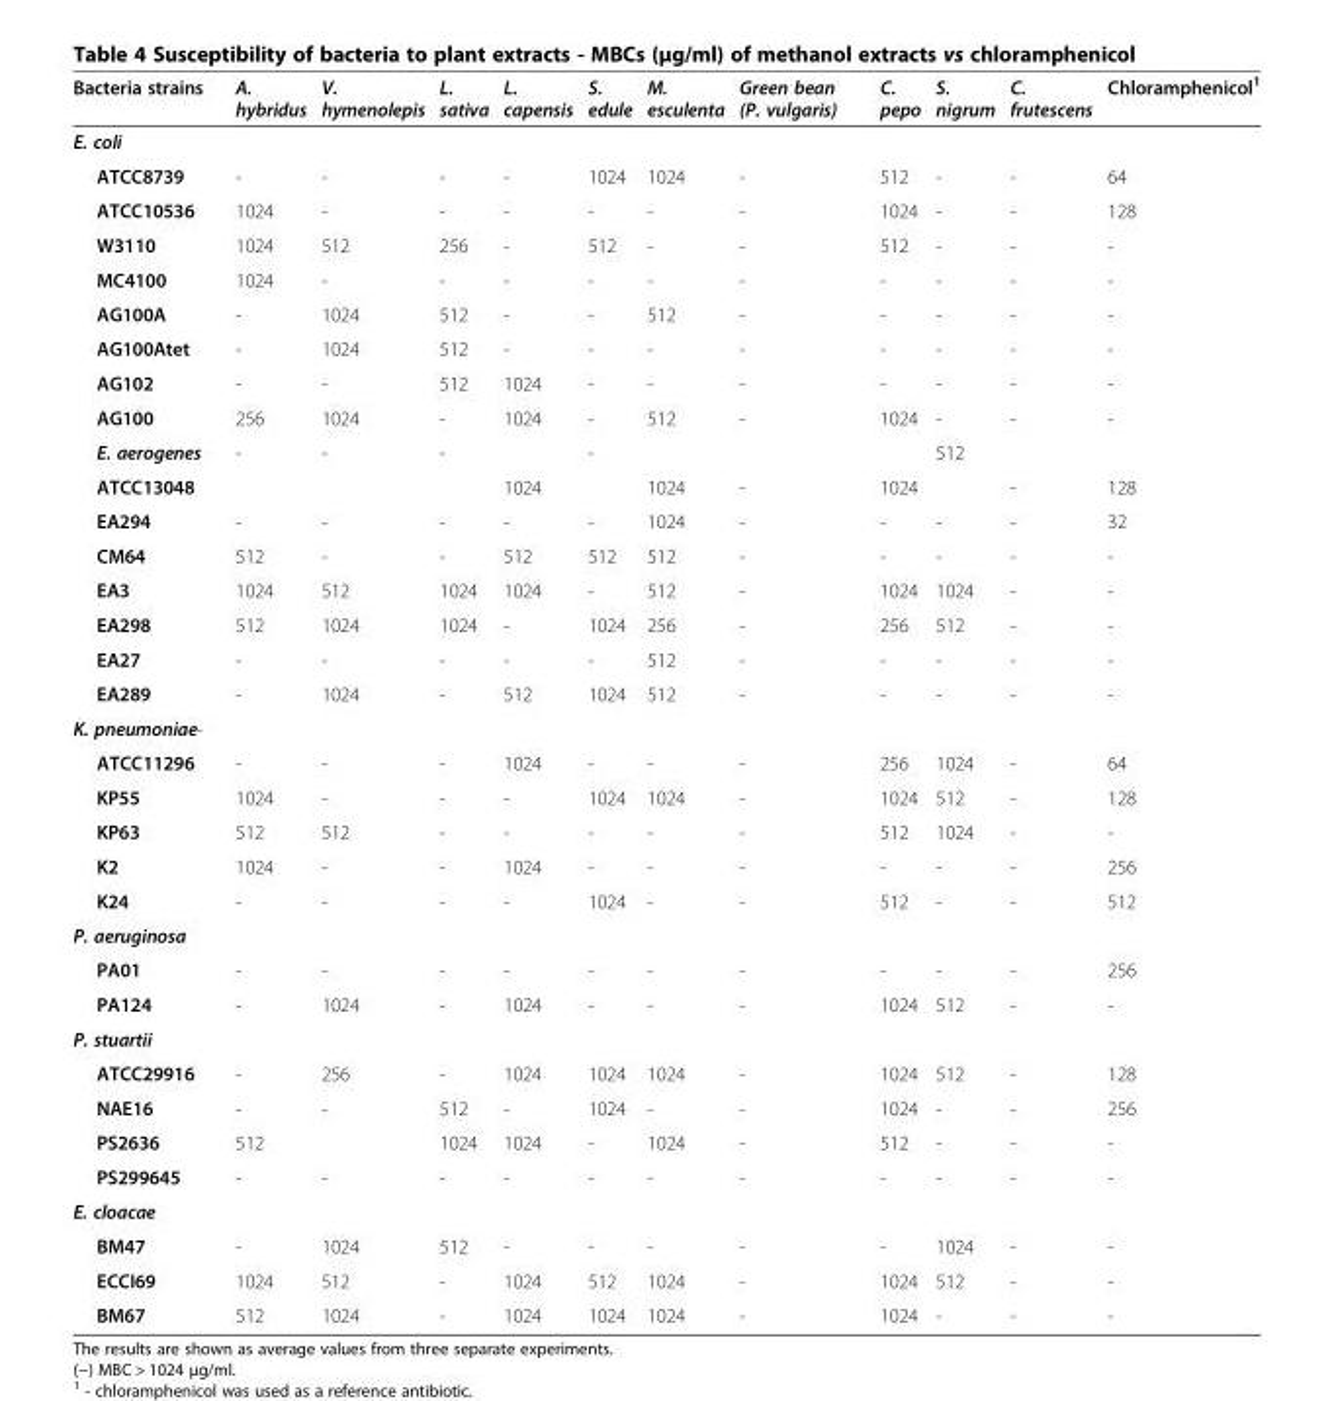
<table><thead><tr><td>Bacteria strains</td><td>A. hybridus</td><td>V. hymenolepis</td><td>L. sativa</td><td>L. capensis</td><td>S. edule</td><td>M. esculenta</td><td>Green bean (P. vulgaris)</td><td>C. pepo</td><td>S. nigrum</td><td>C. frutescens</td><td>Chloramphenicol<sup>1</sup></td></tr></thead><tbody><tr><td colspan="12">E. coli</td></tr><tr><td>ATCC8739</td><td>-</td><td>-</td><td>-</td><td>-</td><td>1024</td><td>1024</td><td>-</td><td>512</td><td>-</td><td>-</td><td>64</td></tr><tr><td>ATCC10536</td><td>1024</td><td>-</td><td>-</td><td>-</td><td>-</td><td>-</td><td>-</td><td>1024</td><td>-</td><td>-</td><td>128</td></tr><tr><td>W3110</td><td>1024</td><td>512</td><td>256</td><td>-</td><td>512</td><td>-</td><td>-</td><td>512</td><td>-</td><td>-</td><td>-</td></tr><tr><td>MC4100</td><td>1024</td><td>-</td><td>-</td><td>-</td><td>-</td><td>-</td><td>-</td><td>-</td><td>-</td><td>-</td><td>-</td></tr><tr><td>AG100A</td><td>-</td><td>1024</td><td>512</td><td>-</td><td>-</td><td>512</td><td>-</td><td>-</td><td>-</td><td>-</td><td>-</td></tr><tr><td>AG100Atet</td><td>-</td><td>1024</td><td>512</td><td>-</td><td>-</td><td>-</td><td>-</td><td>-</td><td>-</td><td>-</td><td>-</td></tr><tr><td>AG102</td><td>-</td><td>-</td><td>512</td><td>1024</td><td>-</td><td>-</td><td>-</td><td>-</td><td>-</td><td>-</td><td>-</td></tr><tr><td>AG100</td><td>256</td><td>1024</td><td>-</td><td>1024</td><td>-</td><td>512</td><td>-</td><td>1024</td><td>-</td><td>-</td><td>-</td></tr><tr><td>E. aerogenes</td><td>-</td><td>-</td><td>-</td><td></td><td>-</td><td></td><td></td><td></td><td>512</td><td></td><td></td></tr><tr><td>ATCC13048</td><td></td><td></td><td></td><td>1024</td><td></td><td>1024</td><td>-</td><td>1024</td><td></td><td>-</td><td>128</td></tr><tr><td>EA294</td><td>-</td><td>-</td><td>-</td><td>-</td><td>-</td><td>1024</td><td>-</td><td>-</td><td>-</td><td>-</td><td>32</td></tr><tr><td>CM64</td><td>512</td><td>-</td><td>-</td><td>512</td><td>512</td><td>512</td><td>-</td><td>-</td><td>-</td><td>-</td><td>-</td></tr><tr><td>EA3</td><td>1024</td><td>512</td><td>1024</td><td>1024</td><td>-</td><td>512</td><td>-</td><td>1024</td><td>1024</td><td>-</td><td>-</td></tr><tr><td>EA298</td><td>512</td><td>1024</td><td>1024</td><td>-</td><td>1024</td><td>256</td><td>-</td><td>256</td><td>512</td><td>-</td><td>-</td></tr><tr><td>EA27</td><td>-</td><td>-</td><td>-</td><td>-</td><td>-</td><td>512</td><td>-</td><td>-</td><td>-</td><td>-</td><td>-</td></tr><tr><td>EA289</td><td>-</td><td>1024</td><td>-</td><td>512</td><td>1024</td><td>512</td><td>-</td><td>-</td><td>-</td><td>-</td><td>-</td></tr><tr><td colspan="12">K. pneumoniae-</td></tr><tr><td>ATCC11296</td><td>-</td><td>-</td><td>-</td><td>1024</td><td>-</td><td>-</td><td>-</td><td>256</td><td>1024</td><td>-</td><td>64</td></tr><tr><td>KP55</td><td>1024</td><td>-</td><td>-</td><td>-</td><td>1024</td><td>1024</td><td>-</td><td>1024</td><td>512</td><td>-</td><td>128</td></tr><tr><td>KP63</td><td>512</td><td>512</td><td>-</td><td>-</td><td>-</td><td>-</td><td>-</td><td>512</td><td>1024</td><td>-</td><td>-</td></tr><tr><td>K2</td><td>1024</td><td>-</td><td>-</td><td>1024</td><td>-</td><td>-</td><td>-</td><td>-</td><td>-</td><td>-</td><td>256</td></tr><tr><td>K24</td><td>-</td><td>-</td><td>-</td><td>-</td><td>1024</td><td>-</td><td>-</td><td>512</td><td>-</td><td>-</td><td>512</td></tr><tr><td colspan="12">P. aeruginosa</td></tr><tr><td>PA01</td><td>-</td><td>-</td><td>-</td><td>-</td><td>-</td><td>-</td><td>-</td><td>-</td><td>-</td><td>-</td><td>256</td></tr><tr><td>PA124</td><td>-</td><td>1024</td><td>-</td><td>1024</td><td>-</td><td>-</td><td>-</td><td>1024</td><td>512</td><td>-</td><td>-</td></tr><tr><td colspan="12">P. stuartii</td></tr><tr><td>ATCC29916</td><td>-</td><td>256</td><td>-</td><td>1024</td><td>1024</td><td>1024</td><td>-</td><td>1024</td><td>512</td><td>-</td><td>128</td></tr><tr><td>NAE16</td><td>-</td><td>-</td><td>512</td><td>-</td><td>1024</td><td>-</td><td>-</td><td>1024</td><td>-</td><td>-</td><td>256</td></tr><tr><td>PS2636</td><td>512</td><td></td><td>1024</td><td>1024</td><td>-</td><td>1024</td><td>-</td><td>512</td><td>-</td><td>-</td><td>-</td></tr><tr><td>PS299645</td><td>-</td><td>-</td><td>-</td><td>-</td><td>-</td><td>-</td><td>-</td><td>-</td><td>-</td><td>-</td><td>-</td></tr><tr><td colspan="12">E. cloacae</td></tr><tr><td>BM47</td><td>-</td><td>1024</td><td>512</td><td>-</td><td>-</td><td>-</td><td>-</td><td>-</td><td>1024</td><td>-</td><td>-</td></tr><tr><td>ECCI69</td><td>1024</td><td>512</td><td>-</td><td>1024</td><td>512</td><td>1024</td><td>-</td><td>1024</td><td>512</td><td>-</td><td>-</td></tr><tr><td>BM67</td><td>512</td><td>1024</td><td>-</td><td>1024</td><td>1024</td><td>1024</td><td>-</td><td>1024</td><td>-</td><td>-</td><td>-</td></tr></tbody></table>